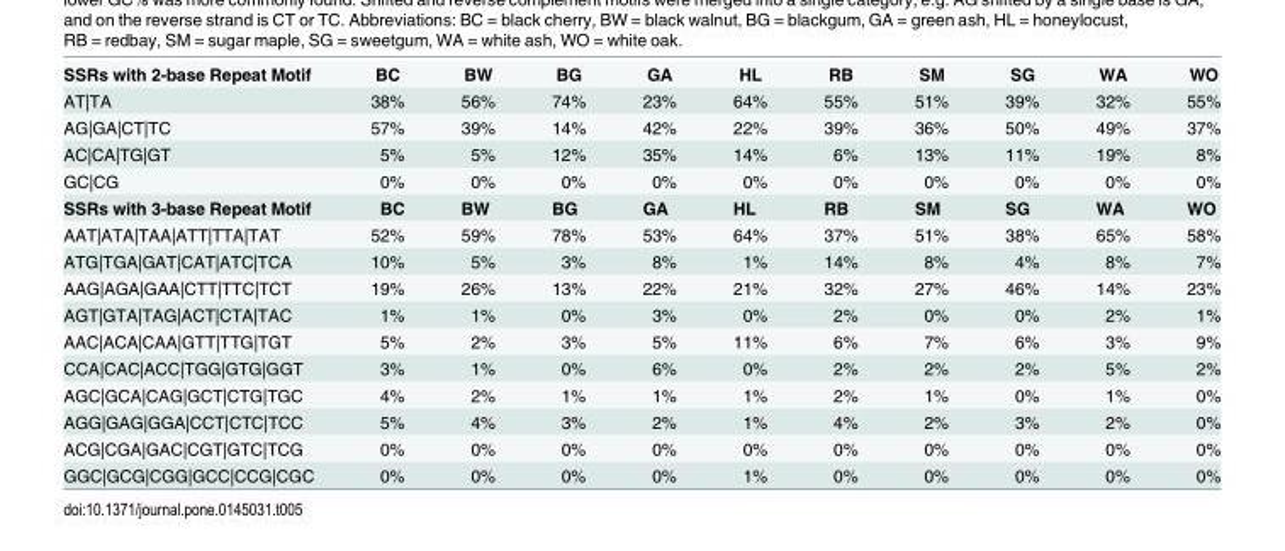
<table><tbody><tr><td>SSRs with 2-base Repeat Motif</td><td>BC</td><td>BW</td><td>BG</td><td>GA</td><td>HL</td><td>RB</td><td>SM</td><td>SG</td><td>WA</td><td>WO</td></tr><tr><td>AT|TA</td><td>38%</td><td>56%</td><td>74%</td><td>23%</td><td>64%</td><td>55%</td><td>51%</td><td>39%</td><td>32%</td><td>55%</td></tr><tr><td>AG|GA|CT|TC</td><td>57%</td><td>39%</td><td>14%</td><td>42%</td><td>22%</td><td>39%</td><td>36%</td><td>50%</td><td>49%</td><td>37%</td></tr><tr><td>AC|CA|TG|GT</td><td>5%</td><td>5%</td><td>12%</td><td>35%</td><td>14%</td><td>6%</td><td>13%</td><td>11%</td><td>19%</td><td>8%</td></tr><tr><td>GC|CG</td><td>0%</td><td>0%</td><td>0%</td><td>0%</td><td>0%</td><td>0%</td><td>0%</td><td>0%</td><td>0%</td><td>0%</td></tr><tr><td>SSRs with 3-base Repeat Motif</td><td>BC</td><td>BW</td><td>BG</td><td>GA</td><td>HL</td><td>RB</td><td>SM</td><td>SG</td><td>WA</td><td>WO</td></tr><tr><td>AAT|ATA|TAA|ATT|TTA|TAT</td><td>52%</td><td>59%</td><td>78%</td><td>53%</td><td>64%</td><td>37%</td><td>51%</td><td>38%</td><td>65%</td><td>58%</td></tr><tr><td>ATG|TGA|GAT|CAT|ATC|TCA</td><td>10%</td><td>5%</td><td>3%</td><td>8%</td><td>1%</td><td>14%</td><td>8%</td><td>4%</td><td>8%</td><td>7%</td></tr><tr><td>AAG|AGA|GAA|CTT|TTC|TCT</td><td>19%</td><td>26%</td><td>13%</td><td>22%</td><td>21%</td><td>32%</td><td>27%</td><td>46%</td><td>14%</td><td>23%</td></tr><tr><td>AGT|GTA|TAG|ACT|CTA|TAC</td><td>1%</td><td>1%</td><td>0%</td><td>3%</td><td>0%</td><td>2%</td><td>0%</td><td>0%</td><td>2%</td><td>1%</td></tr><tr><td>AAC|ACA|CAA|GTT|TTG|TGT</td><td>5%</td><td>2%</td><td>3%</td><td>5%</td><td>11%</td><td>6%</td><td>7%</td><td>6%</td><td>3%</td><td>9%</td></tr><tr><td>CCA|CAC|ACC|TGG|GTG|GGT</td><td>3%</td><td>1%</td><td>0%</td><td>6%</td><td>0%</td><td>2%</td><td>2%</td><td>2%</td><td>5%</td><td>2%</td></tr><tr><td>AGC|GCA|CAG|GCT|CTG|TGC</td><td>4%</td><td>2%</td><td>1%</td><td>1%</td><td>1%</td><td>2%</td><td>1%</td><td>0%</td><td>1%</td><td>0%</td></tr><tr><td>AGG|GAG|GGA|CCT|CTC|TCC</td><td>5%</td><td>4%</td><td>3%</td><td>2%</td><td>1%</td><td>4%</td><td>2%</td><td>3%</td><td>2%</td><td>0%</td></tr><tr><td>ACG|CGA|GAC|CGT|GTC|TCG</td><td>0%</td><td>0%</td><td>0%</td><td>0%</td><td>0%</td><td>0%</td><td>0%</td><td>0%</td><td>0%</td><td>0%</td></tr><tr><td>GGC|GCG|CGG|GCC|CCG|CGC</td><td>0%</td><td>0%</td><td>0%</td><td>0%</td><td>1%</td><td>0%</td><td>0%</td><td>0%</td><td>0%</td><td>0%</td></tr></tbody></table>